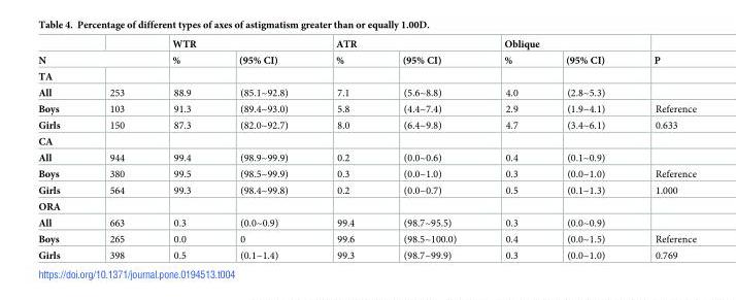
<table><thead><tr><td></td><td></td><td colspan="2">WTR</td><td colspan="2">ATR</td><td colspan="2">Oblique</td><td rowspan="2">P</td></tr><tr><td colspan="2">N</td><td>%</td><td>(95% CI)</td><td>%</td><td>(95% CI)</td><td>%</td><td>(95% CI)</td></tr></thead><tbody><tr><td colspan="9">TA</td></tr><tr><td>All</td><td>253</td><td>88.9</td><td>(85.1~92.8)</td><td>7.1</td><td>(5.6~8.8)</td><td>4.0</td><td>(2.8~5.3)</td><td></td></tr><tr><td>Boys</td><td>103</td><td>91.3</td><td>(89.4~93.0)</td><td>5.8</td><td>(4.4~7.4)</td><td>2.9</td><td>(1.9~4.1)</td><td>Reference</td></tr><tr><td>Girls</td><td>150</td><td>87.3</td><td>(82.0~92.7)</td><td>8.0</td><td>(6.4~9.8)</td><td>4.7</td><td>(3.4~6.1)</td><td>0.633</td></tr><tr><td colspan="9">CA</td></tr><tr><td>All</td><td>944</td><td>99.4</td><td>(98.9~99.9)</td><td>0.2</td><td>(0.0~0.6)</td><td>0.4</td><td>(0.1~0.9)</td><td></td></tr><tr><td>Boys</td><td>380</td><td>99.5</td><td>(98.5~99.9)</td><td>0.3</td><td>(0.0~1.0)</td><td>0.3</td><td>(0.0~1.0)</td><td>Reference</td></tr><tr><td>Girls</td><td>564</td><td>99.3</td><td>(98.4~99.8)</td><td>0.2</td><td>(0.0~0.7)</td><td>0.5</td><td>(0.1~1.3)</td><td>1.000</td></tr><tr><td colspan="9">ORA</td></tr><tr><td>All</td><td>663</td><td>0.3</td><td>(0.0~0.9)</td><td>99.4</td><td>(98.7~95.5)</td><td>0.3</td><td>(0.0~0.9)</td><td></td></tr><tr><td>Boys</td><td>265</td><td>0.0</td><td>0</td><td>99.6</td><td>(98.5~100.0)</td><td>0.4</td><td>(0.0~1.5)</td><td>Reference</td></tr><tr><td>Girls</td><td>398</td><td>0.5</td><td>(0.1~1.4)</td><td>99.3</td><td>(98.7~99.9)</td><td>0.3</td><td>(0.0~1.0)</td><td>0.769</td></tr></tbody></table>